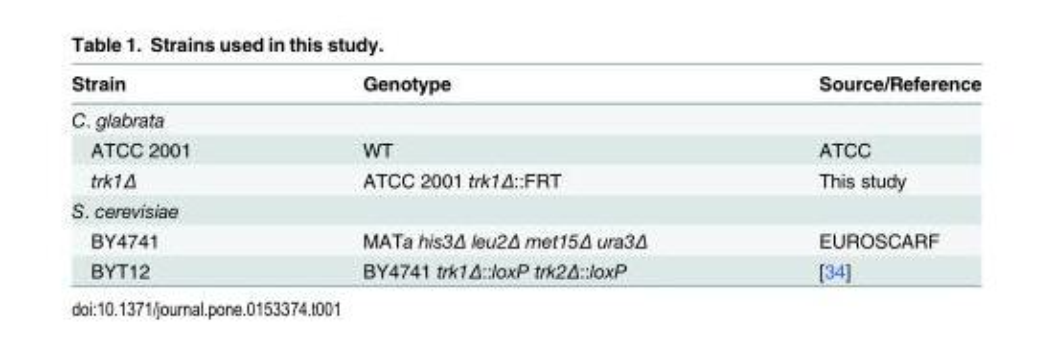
<table><thead><tr><td>Strain</td><td>Genotype</td><td>Source/Reference</td></tr></thead><tbody><tr><td colspan="3">C. glabrata</td></tr><tr><td>ATCC 2001</td><td>WT</td><td>ATCC</td></tr><tr><td>trk1Δ</td><td>ATCC 2001 trk1Δ::FRT</td><td>This study</td></tr><tr><td colspan="3">S. cerevisiae</td></tr><tr><td>BY4741</td><td>MATa his3Δ leu2Δ met15Δ ura3Δ</td><td>EUROSCARF</td></tr><tr><td>BYT12</td><td>BY4741 trk1Δ::loxP trk2Δ::loxP</td><td>[34]</td></tr></tbody></table>